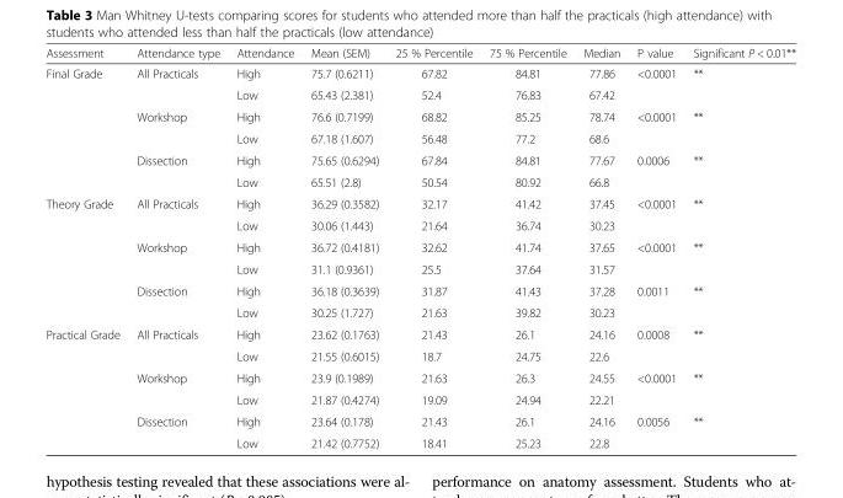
<table><thead><tr><td>Assessment</td><td>Attendance type</td><td>Attendance</td><td>Mean (SEM)</td><td>25 % Percentile</td><td>75 % Percentile</td><td>Median</td><td>P value</td><td>Significant P &lt; 0.01**</td></tr></thead><tbody><tr><td rowspan="6">Final Grade</td><td rowspan="2">All Practicals</td><td>High</td><td>75.7 (0.6211)</td><td>67.82</td><td>84.81</td><td>77.86</td><td rowspan="2">&lt;0.0001</td><td rowspan="2">**</td></tr><tr><td>Low</td><td>65.43 (2.381)</td><td>52.4</td><td>76.83</td><td>67.42</td></tr><tr><td rowspan="2">Workshop</td><td>High</td><td>76.6 (0.7199)</td><td>68.82</td><td>85.25</td><td>78.74</td><td rowspan="2">&lt;0.0001</td><td rowspan="2">**</td></tr><tr><td>Low</td><td>67.18 (1.607)</td><td>56.48</td><td>77.2</td><td>68.6</td></tr><tr><td rowspan="2">Dissection</td><td>High</td><td>75.65 (0.6294)</td><td>67.84</td><td>84.81</td><td>77.67</td><td rowspan="2">0.0006</td><td rowspan="2">**</td></tr><tr><td>Low</td><td>65.51 (2.8)</td><td>50.54</td><td>80.92</td><td>66.8</td></tr><tr><td rowspan="6">Theory Grade</td><td rowspan="2">All Practicals</td><td>High</td><td>36.29 (0.3582)</td><td>32.17</td><td>41.42</td><td>37.45</td><td rowspan="2">&lt;0.0001</td><td rowspan="2">**</td></tr><tr><td>Low</td><td>30.06 (1.443)</td><td>21.64</td><td>36.74</td><td>30.23</td></tr><tr><td rowspan="2">Workshop</td><td>High</td><td>36.72 (0.4181)</td><td>32.62</td><td>41.74</td><td>37.65</td><td rowspan="2">&lt;0.0001</td><td rowspan="2">**</td></tr><tr><td>Low</td><td>31.1 (0.9361)</td><td>25.5</td><td>37.64</td><td>31.57</td></tr><tr><td rowspan="2">Dissection</td><td>High</td><td>36.18 (0.3639)</td><td>31.87</td><td>41.43</td><td>37.28</td><td rowspan="2">0.0011</td><td rowspan="2">**</td></tr><tr><td>Low</td><td>30.25 (1.727)</td><td>21.63</td><td>39.82</td><td>30.23</td></tr><tr><td rowspan="6">Practical Grade</td><td rowspan="2">All Practicals</td><td>High</td><td>23.62 (0.1763)</td><td>21.43</td><td>26.1</td><td>24.16</td><td rowspan="2">0.0008</td><td rowspan="2">**</td></tr><tr><td>Low</td><td>21.55 (0.6015)</td><td>18.7</td><td>24.75</td><td>22.6</td></tr><tr><td rowspan="2">Workshop</td><td>High</td><td>23.9 (0.1989)</td><td>21.63</td><td>26.3</td><td>24.55</td><td rowspan="2">&lt;0.0001</td><td rowspan="2">**</td></tr><tr><td>Low</td><td>21.87 (0.4274)</td><td>19.09</td><td>24.94</td><td>22.21</td></tr><tr><td rowspan="2">Dissection</td><td>High</td><td>23.64 (0.178)</td><td>21.43</td><td>26.1</td><td>24.16</td><td rowspan="2">0.0056</td><td rowspan="2">**</td></tr><tr><td>Low</td><td>21.42 (0.7752)</td><td>18.41</td><td>25.23</td><td>22.8</td></tr></tbody></table>